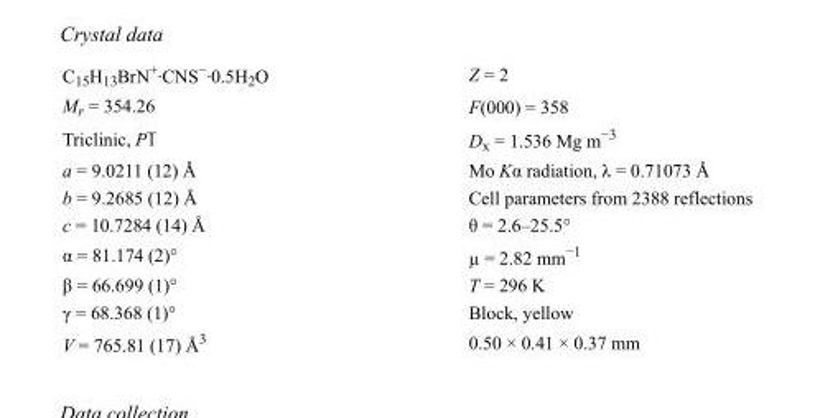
<table><tbody><tr><td>C<sub>15</sub>H<sub>13</sub>BrN<sup>+</sup>·CNS<sup>−</sup>·0.5H<sub>2</sub>O</td><td>Z = 2</td></tr><tr><td>M<sub>r</sub> = 354.26</td><td>F(000) = 358</td></tr><tr><td>Triclinic, P1</td><td>D<sub>x</sub> = 1.536 Mg m<sup>−3</sup></td></tr><tr><td>a = 9.0211 (12) Å</td><td>Mo Kα radiation, λ = 0.71073 Å</td></tr><tr><td>b = 9.2685 (12) Å</td><td>Cell parameters from 2388 reflections</td></tr><tr><td>c = 10.7284 (14) Å</td><td>θ = 2.6–25.5°</td></tr><tr><td>α = 81.174 (2)°</td><td>µ = 2.82 mm<sup>−1</sup></td></tr><tr><td>β = 66.699 (1)°</td><td>T = 296 K</td></tr><tr><td>γ = 68.368 (1)°</td><td>Block, yellow</td></tr><tr><td>V = 765.81 (17) Å<sup>3</sup></td><td>0.50 × 0.41 × 0.37 mm</td></tr></tbody></table>